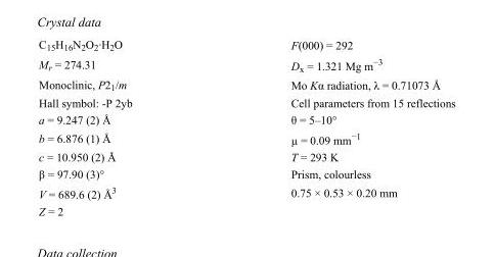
<table><tbody><tr><td>C<sub>15</sub>H<sub>16</sub>N<sub>2</sub>O<sub>2</sub>·H<sub>2</sub>O</td><td>F(000) = 292</td></tr><tr><td>M<sub>r</sub> = 274.31</td><td>D<sub>x</sub> = 1.321 Mg m<sup>−3</sup></td></tr><tr><td>Monoclinic, P2<sub>1</sub>/m</td><td>Mo Kα radiation, λ = 0.71073 Å</td></tr><tr><td>Hall symbol: -P 2yb</td><td>Cell parameters from 15 reflections</td></tr><tr><td>a = 9.247 (2) Å</td><td>θ = 5–10°</td></tr><tr><td>b = 6.876 (1) Å</td><td>µ = 0.09 mm<sup>−1</sup></td></tr><tr><td>c = 10.950 (2) Å</td><td>T = 293 K</td></tr><tr><td>β = 97.90 (3)°</td><td>Prism, colourless</td></tr><tr><td>V = 689.6 (2) Å<sup>3</sup></td><td>0.75 × 0.53 × 0.20 mm</td></tr><tr><td>Z = 2</td><td></td></tr></tbody></table>